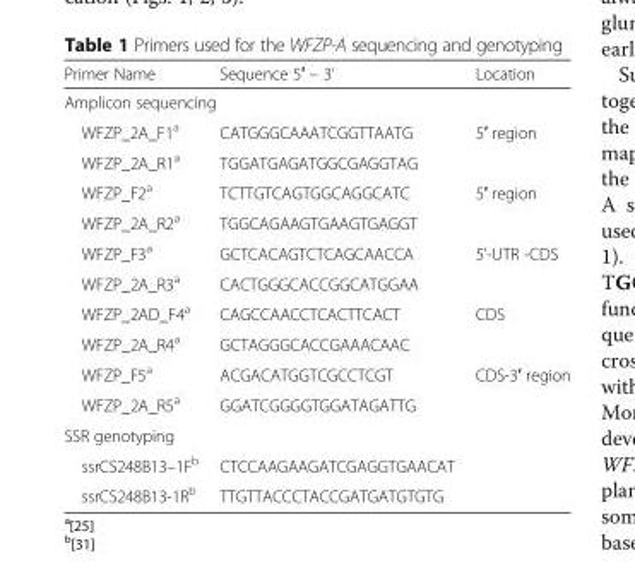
<table><thead><tr><td>Primer Name</td><td>Sequence 5′ – 3’</td><td>Location</td></tr></thead><tbody><tr><td colspan="3">Amplicon sequencing</td></tr><tr><td>WFZP_2A_F1<sup>a</sup></td><td>CATGGGCAAATCGGTTAATG</td><td rowspan="2">5′ region</td></tr><tr><td>WFZP_2A_R1<sup>a</sup></td><td>TGGATGAGATGGCGAGGTAG</td></tr><tr><td>WFZP_F2<sup>a</sup></td><td>TCTTGTCAGTGGCAGGCATC</td><td rowspan="2">5′ region</td></tr><tr><td>WFZP_2A_R2<sup>a</sup></td><td>TGGCAGAAGTGAAGTGAGGT</td></tr><tr><td>WFZP_F3<sup>a</sup></td><td>GCTCACAGTCTCAGCAACCA</td><td rowspan="2">5’-UTR -CDS</td></tr><tr><td>WFZP_2A_R3<sup>a</sup></td><td>CACTGGGCACCGGCATGGAA</td></tr><tr><td>WFZP_2AD_F4<sup>a</sup></td><td>CAGCCAACCTCACTTCACT</td><td rowspan="2">CDS</td></tr><tr><td>WFZP_2A_R4<sup>a</sup></td><td>GCTAGGGCACCGAAACAAC</td></tr><tr><td>WFZP_F5<sup>a</sup></td><td>ACGACATGGTCGCCTCGT</td><td rowspan="2">CDS-3′ region</td></tr><tr><td>WFZP_2A_R5<sup>a</sup></td><td>GGATCGGGGTGGATAGATTG</td></tr><tr><td colspan="3">SSR genotyping</td></tr><tr><td>ssrCS248B13–1F<sup>b</sup></td><td>CTCCAAGAAGATCGAGGTGAACAT</td><td rowspan="2"></td></tr><tr><td>ssrCS248B13-1R<sup>b</sup></td><td>TTGTTACCCTACCGATGATGTGTG</td></tr></tbody></table>